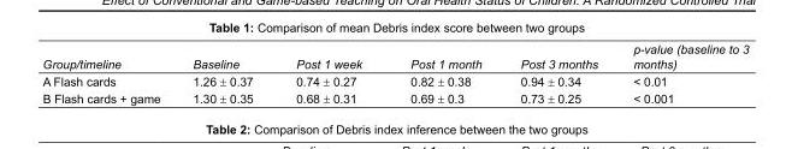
<table><tbody><tr><td>Group/timeline</td><td>Baseline</td><td>Post 1 week</td><td>Post 1 month</td><td>Post 3 months</td><td>p-value (baseline to 3 months)</td></tr><tr><td>A Flash cards</td><td>1.26 ± 0.37</td><td>0.74 ± 0.27</td><td>0.82 ± 0.38</td><td>0.94 ± 0.34</td><td>&lt; 0.01</td></tr><tr><td>B Flash cards + game</td><td>1.30 ± 0.35</td><td>0.68 ± 0.31</td><td>0.69 ± 0.3</td><td>0.73 ± 0.25</td><td>&lt; 0.001</td></tr></tbody></table>